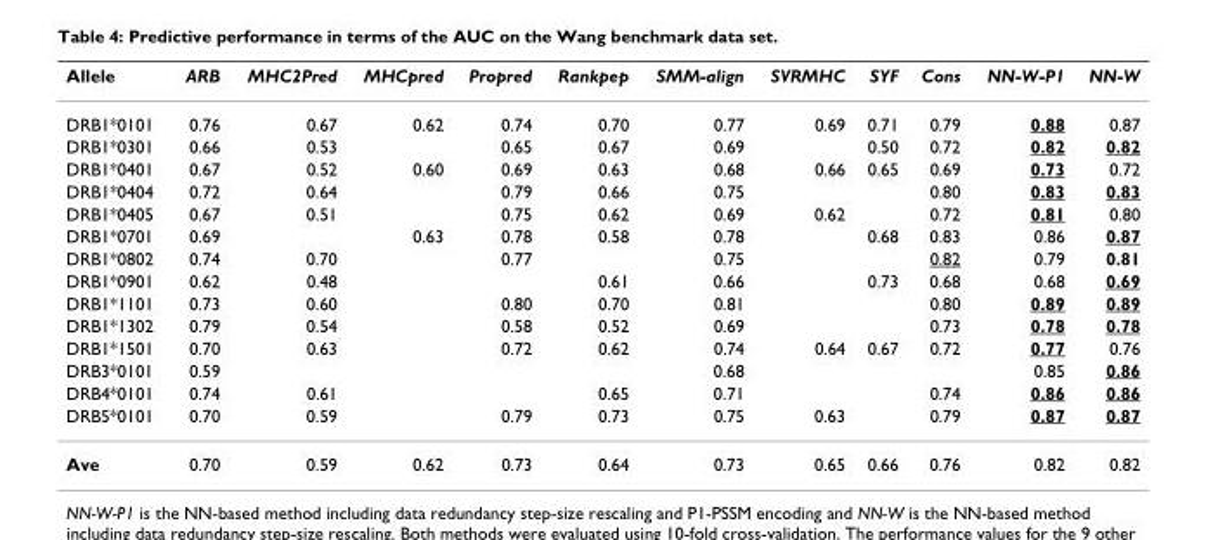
<table><thead><tr><td>Allele</td><td>ARB</td><td>MHC2Pred</td><td>MHCpred</td><td>Propred</td><td>Rankpep</td><td>SMM-align</td><td>SVRMHC</td><td>SYF</td><td>Cons</td><td>NN-W-P1</td><td>NN-W</td></tr></thead><tbody><tr><td>DRB1*0101</td><td>0.76</td><td>0.67</td><td>0.62</td><td>0.74</td><td>0.70</td><td>0.77</td><td>0.69</td><td>0.71</td><td>0.79</td><td>0.88</td><td>0.87</td></tr><tr><td>DRB1*0301</td><td>0.66</td><td>0.53</td><td></td><td>0.65</td><td>0.67</td><td>0.69</td><td></td><td>0.50</td><td>0.72</td><td>0.82</td><td>0.82</td></tr><tr><td>DRB1*0401</td><td>0.67</td><td>0.52</td><td>0.60</td><td>0.69</td><td>0.63</td><td>0.68</td><td>0.66</td><td>0.65</td><td>0.69</td><td>0.73</td><td>0.72</td></tr><tr><td>DRB1*0404</td><td>0.72</td><td>0.64</td><td></td><td>0.79</td><td>0.66</td><td>0.75</td><td></td><td></td><td>0.80</td><td>0.83</td><td>0.83</td></tr><tr><td>DRB1*0405</td><td>0.67</td><td>0.51</td><td></td><td>0.75</td><td>0.62</td><td>0.69</td><td>0.62</td><td></td><td>0.72</td><td>0.81</td><td>0.80</td></tr><tr><td>DRB1*0701</td><td>0.69</td><td></td><td>0.63</td><td>0.78</td><td>0.58</td><td>0.78</td><td></td><td>0.68</td><td>0.83</td><td>0.86</td><td>0.87</td></tr><tr><td>DRB1*0802</td><td>0.74</td><td>0.70</td><td></td><td>0.77</td><td></td><td>0.75</td><td></td><td></td><td>0.82</td><td>0.79</td><td>0.81</td></tr><tr><td>DRB1*0901</td><td>0.62</td><td>0.48</td><td></td><td></td><td>0.61</td><td>0.66</td><td></td><td>0.73</td><td>0.68</td><td>0.68</td><td>0.69</td></tr><tr><td>DRB1*1101</td><td>0.73</td><td>0.60</td><td></td><td>0.80</td><td>0.70</td><td>0.81</td><td></td><td></td><td>0.80</td><td>0.89</td><td>0.89</td></tr><tr><td>DRB1*1302</td><td>0.79</td><td>0.54</td><td></td><td>0.58</td><td>0.52</td><td>0.69</td><td></td><td></td><td>0.73</td><td>0.78</td><td>0.78</td></tr><tr><td>DRB1*1501</td><td>0.70</td><td>0.63</td><td></td><td>0.72</td><td>0.62</td><td>0.74</td><td>0.64</td><td>0.67</td><td>0.72</td><td>0.77</td><td>0.76</td></tr><tr><td>DRB3*0101</td><td>0.59</td><td></td><td></td><td></td><td></td><td>0.68</td><td></td><td></td><td></td><td>0.85</td><td>0.86</td></tr><tr><td>DRB4*0101</td><td>0.74</td><td>0.61</td><td></td><td></td><td>0.65</td><td>0.71</td><td></td><td></td><td>0.74</td><td>0.86</td><td>0.86</td></tr><tr><td>DRB5*0101</td><td>0.70</td><td>0.59</td><td></td><td>0.79</td><td>0.73</td><td>0.75</td><td>0.63</td><td></td><td>0.79</td><td>0.87</td><td>0.87</td></tr><tr><td>Ave</td><td>0.70</td><td>0.59</td><td>0.62</td><td>0.73</td><td>0.64</td><td>0.73</td><td>0.65</td><td>0.66</td><td>0.76</td><td>0.82</td><td>0.82</td></tr></tbody></table>